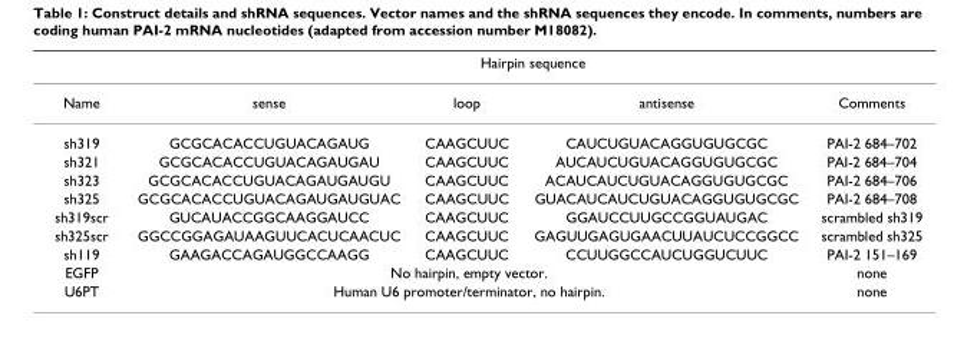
<table><thead><tr><td rowspan="2">Name</td><td colspan="4">Hairpin sequence</td></tr><tr><td>sense</td><td>loop</td><td>antisense</td><td>Comments</td></tr></thead><tbody><tr><td>sh319</td><td>GCGCACACCUGUACAGAUG</td><td>CAAGCUUC</td><td>CAUCUGUACAGGUGUGCGC</td><td>PAI-2 684–702</td></tr><tr><td>sh321</td><td>GCGCACACCUGUACAGAUGAU</td><td>CAAGCUUC</td><td>AUCAUCUGUACAGGUGUGCGC</td><td>PAI-2 684–704</td></tr><tr><td>sh323</td><td>GCGCACACCUGUACAGAUGAUGU</td><td>CAAGCUUC</td><td>ACAUCAUCUGUACAGGUGUGCGC</td><td>PAI-2 684–706</td></tr><tr><td>sh325</td><td>GCGCACACCUGUACAGAUGAUGUAC</td><td>CAAGCUUC</td><td>GUACAUCAUCUGUACAGGUGUGCGC</td><td>PAI-2 684–708</td></tr><tr><td>sh319scr</td><td>GUCAUACCGGCAAGGAUCC</td><td>CAAGCUUC</td><td>GGAUCCUUGCCGGUAUGAC</td><td>scrambled sh319</td></tr><tr><td>sh325scr</td><td>GGCCGGAGAUAAGUUCACUCAACUC</td><td>CAAGCUUC</td><td>GAGUUGAGUGAACUUAUCUCCGGCC</td><td>scrambled sh325</td></tr><tr><td>sh119</td><td>GAAGACCAGAUGGCCAAGG</td><td>CAAGCUUC</td><td>CCUUGGCCAUCUGGUCUUC</td><td>PAI-2 151–169</td></tr><tr><td>EGFP</td><td colspan="3">No hairpin, empty vector.</td><td>none</td></tr><tr><td>U6PT</td><td colspan="3">Human U6 promoter/terminator, no hairpin.</td><td>none</td></tr></tbody></table>